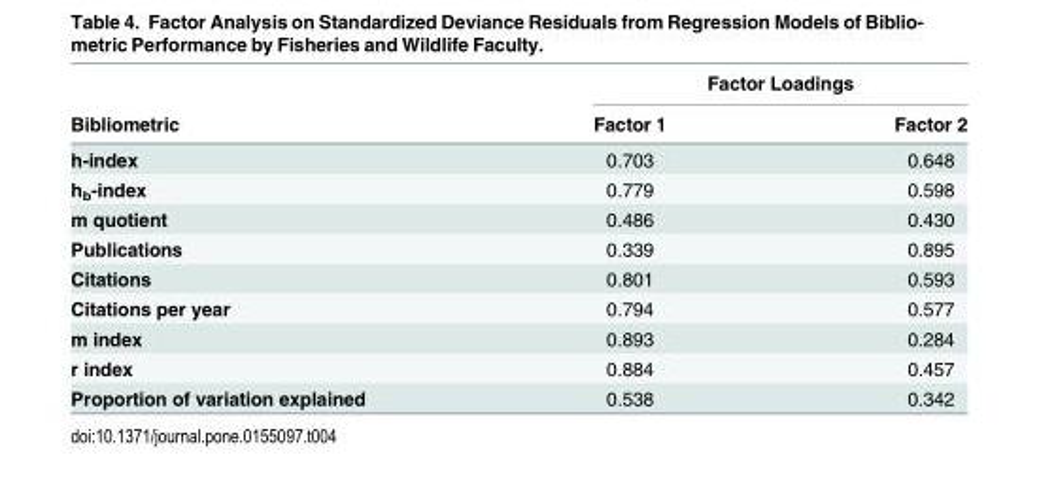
<table><thead><tr><td rowspan="2">Bibliometric</td><td colspan="2">Factor Loadings</td></tr><tr><td>Factor 1</td><td>Factor 2</td></tr></thead><tbody><tr><td>h-index</td><td>0.703</td><td>0.648</td></tr><tr><td>h<sub>b</sub>-index</td><td>0.779</td><td>0.598</td></tr><tr><td>m quotient</td><td>0.486</td><td>0.430</td></tr><tr><td>Publications</td><td>0.339</td><td>0.895</td></tr><tr><td>Citations</td><td>0.801</td><td>0.593</td></tr><tr><td>Citations per year</td><td>0.794</td><td>0.577</td></tr><tr><td>m index</td><td>0.893</td><td>0.284</td></tr><tr><td>r index</td><td>0.884</td><td>0.457</td></tr><tr><td>Proportion of variation explained</td><td>0.538</td><td>0.342</td></tr></tbody></table>